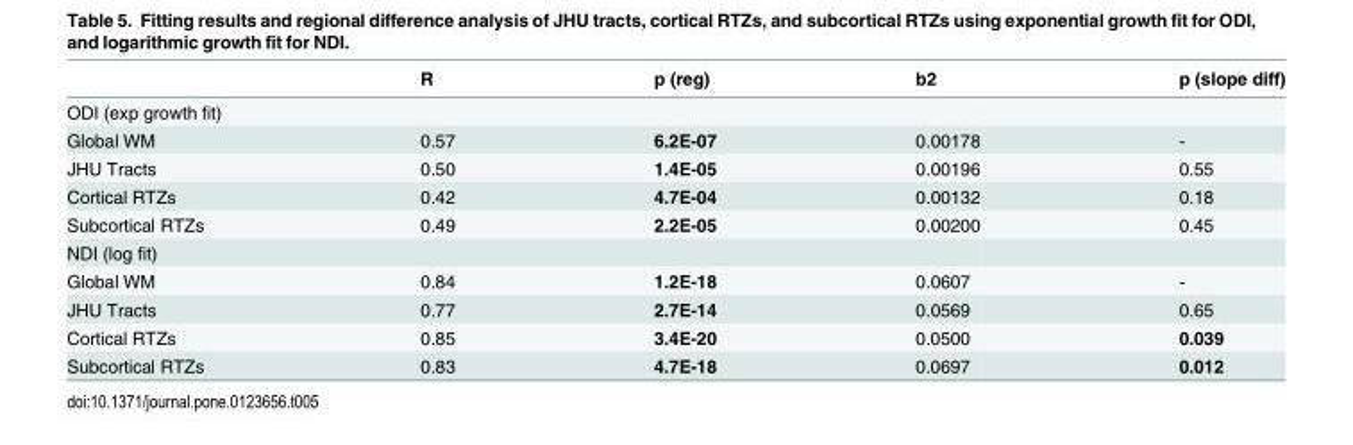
<table><thead><tr><td></td><td>R</td><td>p (reg)</td><td>b2</td><td>p (slope diff)</td></tr></thead><tbody><tr><td colspan="5">ODI (exp growth fit)</td></tr><tr><td>Global WM</td><td>0.57</td><td>6.2E-07</td><td>0.00178</td><td>-</td></tr><tr><td>JHU Tracts</td><td>0.50</td><td>1.4E-05</td><td>0.00196</td><td>0.55</td></tr><tr><td>Cortical RTZs</td><td>0.42</td><td>4.7E-04</td><td>0.00132</td><td>0.18</td></tr><tr><td>Subcortical RTZs</td><td>0.49</td><td>2.2E-05</td><td>0.00200</td><td>0.45</td></tr><tr><td colspan="5">NDI (log fit)</td></tr><tr><td>Global WM</td><td>0.84</td><td>1.2E-18</td><td>0.0607</td><td>-</td></tr><tr><td>JHU Tracts</td><td>0.77</td><td>2.7E-14</td><td>0.0569</td><td>0.65</td></tr><tr><td>Cortical RTZs</td><td>0.85</td><td>3.4E-20</td><td>0.0500</td><td>0.039</td></tr><tr><td>Subcortical RTZs</td><td>0.83</td><td>4.7E-18</td><td>0.0697</td><td>0.012</td></tr></tbody></table>